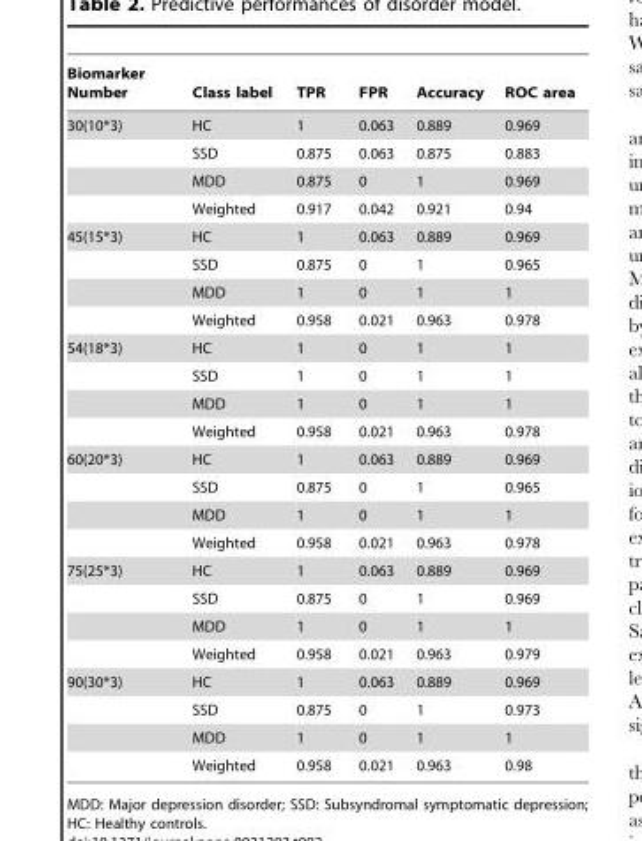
<table><thead><tr><td>Biomarker Number</td><td>Class label</td><td>TPR</td><td>FPR</td><td>Accuracy</td><td>ROC area</td></tr></thead><tbody><tr><td rowspan="4">30(10*3)</td><td>HC</td><td>1</td><td>0.063</td><td>0.889</td><td>0.969</td></tr><tr><td>SSD</td><td>0.875</td><td>0.063</td><td>0.875</td><td>0.883</td></tr><tr><td>MDD</td><td>0.875</td><td>0</td><td>1</td><td>0.969</td></tr><tr><td>Weighted</td><td>0.917</td><td>0.042</td><td>0.921</td><td>0.94</td></tr><tr><td rowspan="4">45(15*3)</td><td>HC</td><td>1</td><td>0.063</td><td>0.889</td><td>0.969</td></tr><tr><td>SSD</td><td>0.875</td><td>0</td><td>1</td><td>0.965</td></tr><tr><td>MDD</td><td>1</td><td>0</td><td>1</td><td>1</td></tr><tr><td>Weighted</td><td>0.958</td><td>0.021</td><td>0.963</td><td>0.978</td></tr><tr><td rowspan="4">54(18*3)</td><td>HC</td><td>1</td><td>0</td><td>1</td><td>1</td></tr><tr><td>SSD</td><td>1</td><td>0</td><td>1</td><td>1</td></tr><tr><td>MDD</td><td>1</td><td>0</td><td>1</td><td>1</td></tr><tr><td>Weighted</td><td>0.958</td><td>0.021</td><td>0.963</td><td>0.978</td></tr><tr><td rowspan="4">60(20*3)</td><td>HC</td><td>1</td><td>0.063</td><td>0.889</td><td>0.969</td></tr><tr><td>SSD</td><td>0.875</td><td>0</td><td>1</td><td>0.965</td></tr><tr><td>MDD</td><td>1</td><td>0</td><td>1</td><td>1</td></tr><tr><td>Weighted</td><td>0.958</td><td>0.021</td><td>0.963</td><td>0.978</td></tr><tr><td rowspan="4">75(25*3)</td><td>HC</td><td>1</td><td>0.063</td><td>0.889</td><td>0.969</td></tr><tr><td>SSD</td><td>0.875</td><td>0</td><td>1</td><td>0.969</td></tr><tr><td>MDD</td><td>1</td><td>0</td><td>1</td><td>1</td></tr><tr><td>Weighted</td><td>0.958</td><td>0.021</td><td>0.963</td><td>0.979</td></tr><tr><td rowspan="4">90(30*3)</td><td>HC</td><td>1</td><td>0.063</td><td>0.889</td><td>0.969</td></tr><tr><td>SSD</td><td>0.875</td><td>0</td><td>1</td><td>0.973</td></tr><tr><td>MDD</td><td>1</td><td>0</td><td>1</td><td>1</td></tr><tr><td>Weighted</td><td>0.958</td><td>0.021</td><td>0.963</td><td>0.98</td></tr></tbody></table>